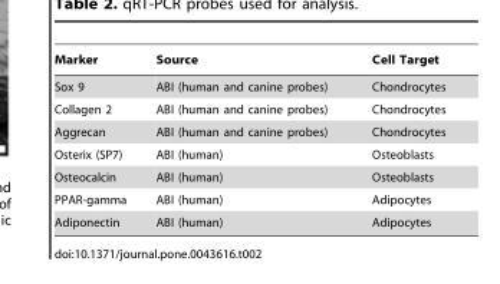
<table><thead><tr><td>Marker</td><td>Source</td><td>Cell Target</td></tr></thead><tbody><tr><td>Sox 9</td><td>ABI (human and canine probes)</td><td>Chondrocytes</td></tr><tr><td>Collagen 2</td><td>ABI (human and canine probes)</td><td>Chondrocytes</td></tr><tr><td>Aggrecan</td><td>ABI (human and canine probes)</td><td>Chondrocytes</td></tr><tr><td>Osterix (SP7)</td><td>ABI (human)</td><td>Osteoblasts</td></tr><tr><td>Osteocalcin</td><td>ABI (human)</td><td>Osteoblasts</td></tr><tr><td>PPAR-gamma</td><td>ABI (human)</td><td>Adipocytes</td></tr><tr><td>Adiponectin</td><td>ABI (human)</td><td>Adipocytes</td></tr></tbody></table>